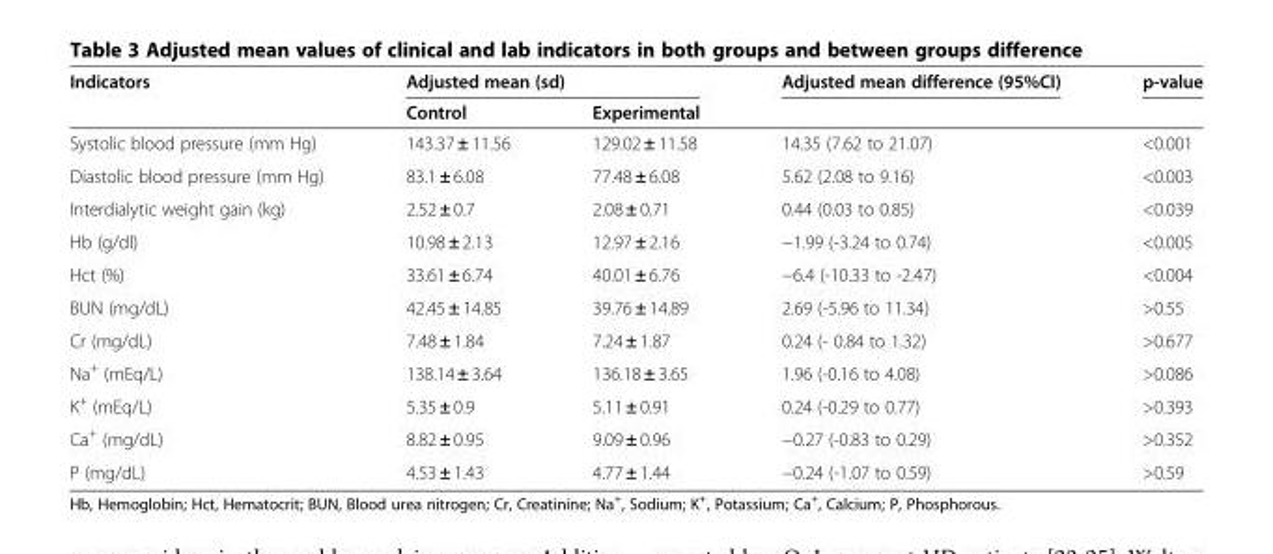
<table><thead><tr><td rowspan="2">Indicators</td><td colspan="2">Adjusted mean (sd)</td><td rowspan="2">Adjusted mean difference (95%CI)</td><td rowspan="2">p-value</td></tr><tr><td>Control</td><td>Experimental</td></tr></thead><tbody><tr><td>Systolic blood pressure (mm Hg)</td><td>143.37 ± 11.56</td><td>129.02 ± 11.58</td><td>14.35 (7.62 to 21.07)</td><td>&lt;0.001</td></tr><tr><td>Diastolic blood pressure (mm Hg)</td><td>83.1 ± 6.08</td><td>77.48 ± 6.08</td><td>5.62 (2.08 to 9.16)</td><td>&lt;0.003</td></tr><tr><td>Interdialytic weight gain (kg)</td><td>2.52 ± 0.7</td><td>2.08 ± 0.71</td><td>0.44 (0.03 to 0.85)</td><td>&lt;0.039</td></tr><tr><td>Hb (g/dl)</td><td>10.98 ± 2.13</td><td>12.97 ± 2.16</td><td>−1.99 (-3.24 to 0.74)</td><td>&lt;0.005</td></tr><tr><td>Hct (%)</td><td>33.61 ± 6.74</td><td>40.01 ± 6.76</td><td>−6.4 (-10.33 to -2.47)</td><td>&lt;0.004</td></tr><tr><td>BUN (mg/dL)</td><td>42.45 ± 14.85</td><td>39.76 ± 14.89</td><td>2.69 (-5.96 to 11.34)</td><td>&gt;0.55</td></tr><tr><td>Cr (mg/dL)</td><td>7.48 ± 1.84</td><td>7.24 ± 1.87</td><td>0.24 (- 0.84 to 1.32)</td><td>&gt;0.677</td></tr><tr><td>Na<sup>+</sup> (mEq/L)</td><td>138.14 ± 3.64</td><td>136.18 ± 3.65</td><td>1.96 (-0.16 to 4.08)</td><td>&gt;0.086</td></tr><tr><td>K<sup>+</sup> (mEq/L)</td><td>5.35 ± 0.9</td><td>5.11 ± 0.91</td><td>0.24 (-0.29 to 0.77)</td><td>&gt;0.393</td></tr><tr><td>Ca<sup>+</sup> (mg/dL)</td><td>8.82 ± 0.95</td><td>9.09 ± 0.96</td><td>−0.27 (-0.83 to 0.29)</td><td>&gt;0.352</td></tr><tr><td>P (mg/dL)</td><td>4.53 ± 1.43</td><td>4.77 ± 1.44</td><td>−0.24 (-1.07 to 0.59)</td><td>&gt;0.59</td></tr></tbody></table>